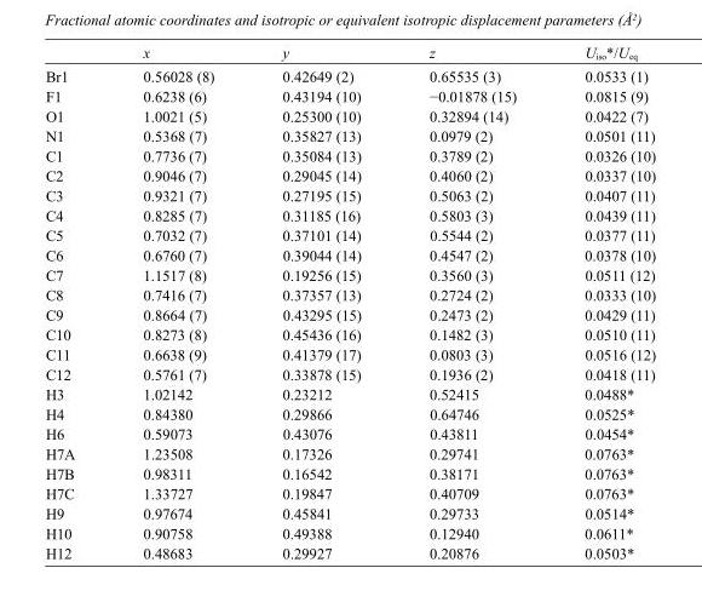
<table><thead><tr><td></td><td>x</td><td>y</td><td>z</td><td>U<sub>iso</sub>*/U<sub>eq</sub></td></tr></thead><tbody><tr><td>Br1</td><td>0.56028 (8)</td><td>0.42649 (2)</td><td>0.65535 (3)</td><td>0.0533 (1)</td></tr><tr><td>F1</td><td>0.6238 (6)</td><td>0.43194 (10)</td><td>−0.01878 (15)</td><td>0.0815 (9)</td></tr><tr><td>O1</td><td>1.0021 (5)</td><td>0.25300 (10)</td><td>0.32894 (14)</td><td>0.0422 (7)</td></tr><tr><td>N1</td><td>0.5368 (7)</td><td>0.35827 (13)</td><td>0.0979 (2)</td><td>0.0501 (11)</td></tr><tr><td>C1</td><td>0.7736 (7)</td><td>0.35084 (13)</td><td>0.3789 (2)</td><td>0.0326 (10)</td></tr><tr><td>C2</td><td>0.9046 (7)</td><td>0.29045 (14)</td><td>0.4060 (2)</td><td>0.0337 (10)</td></tr><tr><td>C3</td><td>0.9321 (7)</td><td>0.27195 (15)</td><td>0.5063 (2)</td><td>0.0407 (11)</td></tr><tr><td>C4</td><td>0.8285 (7)</td><td>0.31185 (16)</td><td>0.5803 (3)</td><td>0.0439 (11)</td></tr><tr><td>C5</td><td>0.7032 (7)</td><td>0.37101 (14)</td><td>0.5544 (2)</td><td>0.0377 (11)</td></tr><tr><td>C6</td><td>0.6760 (7)</td><td>0.39044 (14)</td><td>0.4547 (2)</td><td>0.0378 (10)</td></tr><tr><td>C7</td><td>1.1517 (8)</td><td>0.19256 (15)</td><td>0.3560 (3)</td><td>0.0511 (12)</td></tr><tr><td>C8</td><td>0.7416 (7)</td><td>0.37357 (13)</td><td>0.2724 (2)</td><td>0.0333 (10)</td></tr><tr><td>C9</td><td>0.8664 (7)</td><td>0.43295 (15)</td><td>0.2473 (2)</td><td>0.0429 (11)</td></tr><tr><td>C10</td><td>0.8273 (8)</td><td>0.45436 (16)</td><td>0.1482 (3)</td><td>0.0510 (11)</td></tr><tr><td>C11</td><td>0.6638 (9)</td><td>0.41379 (17)</td><td>0.0803 (3)</td><td>0.0516 (12)</td></tr><tr><td>C12</td><td>0.5761 (7)</td><td>0.33878 (15)</td><td>0.1936 (2)</td><td>0.0418 (11)</td></tr><tr><td>H3</td><td>1.02142</td><td>0.23212</td><td>0.52415</td><td>0.0488*</td></tr><tr><td>H4</td><td>0.84380</td><td>0.29866</td><td>0.64746</td><td>0.0525*</td></tr><tr><td>H6</td><td>0.59073</td><td>0.43076</td><td>0.43811</td><td>0.0454*</td></tr><tr><td>H7A</td><td>1.23508</td><td>0.17326</td><td>0.29741</td><td>0.0763*</td></tr><tr><td>H7B</td><td>0.98311</td><td>0.16542</td><td>0.38171</td><td>0.0763*</td></tr><tr><td>H7C</td><td>1.33727</td><td>0.19847</td><td>0.40709</td><td>0.0763*</td></tr><tr><td>H9</td><td>0.97674</td><td>0.45841</td><td>0.29733</td><td>0.0514*</td></tr><tr><td>H10</td><td>0.90758</td><td>0.49388</td><td>0.12940</td><td>0.0611*</td></tr><tr><td>H12</td><td>0.48683</td><td>0.29927</td><td>0.20876</td><td>0.0503*</td></tr></tbody></table>